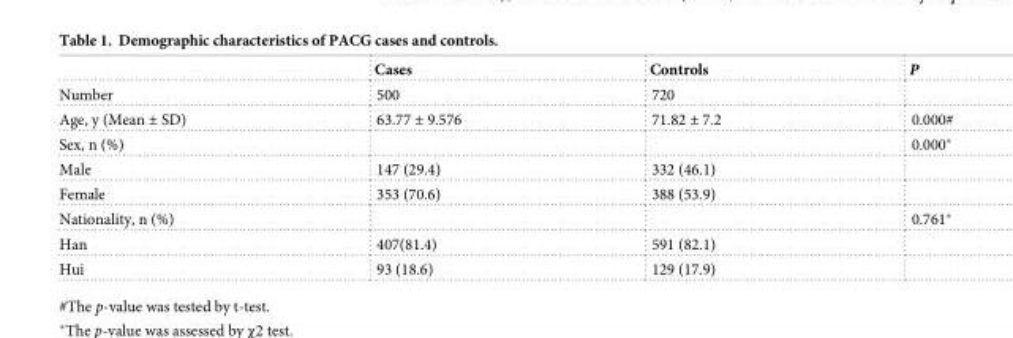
<table><thead><tr><td></td><td>Cases</td><td>Controls</td><td>P</td></tr></thead><tbody><tr><td>Number</td><td>500</td><td>720</td><td></td></tr><tr><td>Age, y (Mean ± SD)</td><td>63.77 ± 9.576</td><td>71.82 ± 7.2</td><td>0.000#</td></tr><tr><td>Sex, n (%)</td><td></td><td></td><td>0.000*</td></tr><tr><td>Male</td><td>147 (29.4)</td><td>332 (46.1)</td><td></td></tr><tr><td>Female</td><td>353 (70.6)</td><td>388 (53.9)</td><td></td></tr><tr><td>Nationality, n (%)</td><td></td><td></td><td>0.761*</td></tr><tr><td>Han</td><td>407(81.4)</td><td>591 (82.1)</td><td></td></tr><tr><td>Hui</td><td>93 (18.6)</td><td>129 (17.9)</td><td></td></tr></tbody></table>